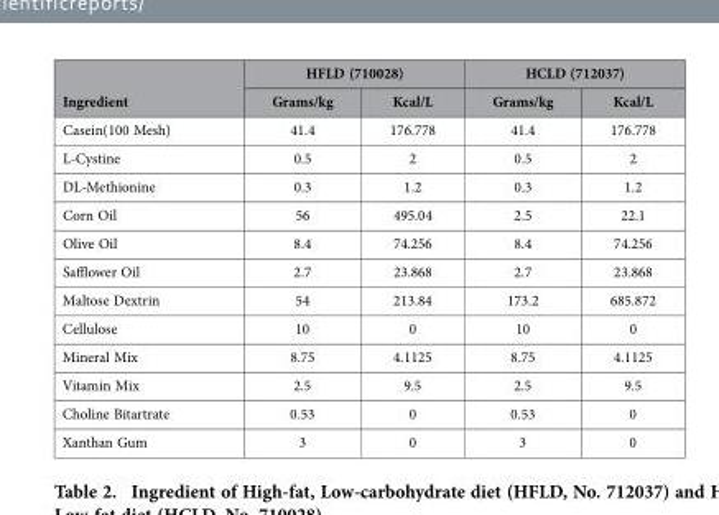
<table><thead><tr><td rowspan="2">Ingredient</td><td colspan="2">HFLD (710028)</td><td colspan="2">HCLD (712037)</td></tr><tr><td>Grams/kg</td><td>Kcal/L</td><td>Grams/kg</td><td>Kcal/L</td></tr></thead><tbody><tr><td>Casein(100 Mesh)</td><td>41.4</td><td>176.778</td><td>41.4</td><td>176.778</td></tr><tr><td>L-Cystine</td><td>0.5</td><td>2</td><td>0.5</td><td>2</td></tr><tr><td>DL-Methionine</td><td>0.3</td><td>1.2</td><td>0.3</td><td>1.2</td></tr><tr><td>Corn Oil</td><td>56</td><td>495.04</td><td>2.5</td><td>22.1</td></tr><tr><td>Olive Oil</td><td>8.4</td><td>74.256</td><td>8.4</td><td>74.256</td></tr><tr><td>Safflower Oil</td><td>2.7</td><td>23.868</td><td>2.7</td><td>23.868</td></tr><tr><td>Maltose Dextrin</td><td>54</td><td>213.84</td><td>173.2</td><td>685.872</td></tr><tr><td>Cellulose</td><td>10</td><td>0</td><td>10</td><td>0</td></tr><tr><td>Mineral Mix</td><td>8.75</td><td>4.1125</td><td>8.75</td><td>4.1125</td></tr><tr><td>Vitamin Mix</td><td>2.5</td><td>9.5</td><td>2.5</td><td>9.5</td></tr><tr><td>Choline Bitartrate</td><td>0.53</td><td>0</td><td>0.53</td><td>0</td></tr><tr><td>Xanthan Gum</td><td>3</td><td>0</td><td>3</td><td>0</td></tr></tbody></table>